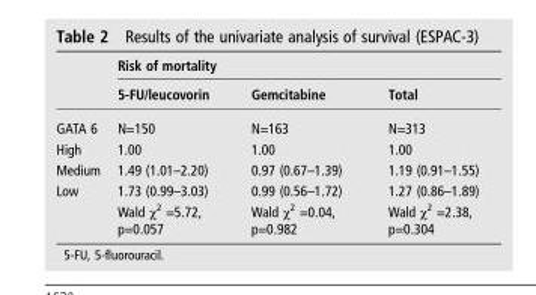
<table><thead><tr><td rowspan="2"></td><td colspan="3">Risk of mortality</td></tr><tr><td>5-FU/leucovorin</td><td>Gemcitabine</td><td>Total</td></tr></thead><tbody><tr><td>GATA 6</td><td>N=150</td><td>N=163</td><td>N=313</td></tr><tr><td>High</td><td>1.00</td><td>1.00</td><td>1.00</td></tr><tr><td>Medium</td><td>1.49 (1.01–2.20)</td><td>0.97 (0.67–1.39)</td><td>1.19 (0.91–1.55)</td></tr><tr><td rowspan="2">Low</td><td>1.73 (0.99–3.03)</td><td>0.99 (0.56–1.72)</td><td>1.27 (0.86–1.89)</td></tr><tr><td>Wald χ<sup>2</sup> =5.72, p=0.057</td><td>Wald χ<sup>2</sup> =0.04, p=0.982</td><td>Wald χ<sup>2</sup> =2.38, p=0.304</td></tr></tbody></table>